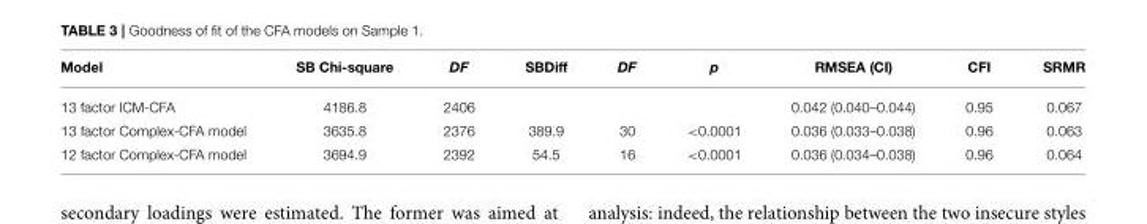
<table><thead><tr><td>Model</td><td>SB Chi-square</td><td>DF</td><td>SBDiff</td><td>DF</td><td>p</td><td>RMSEA (CI)</td><td>CFI</td><td>SRMR</td></tr></thead><tbody><tr><td>13 factor ICM-CFA</td><td>4186.8</td><td>2406</td><td></td><td></td><td></td><td>0.042 (0.040–0.044)</td><td>0.95</td><td>0.067</td></tr><tr><td>13 factor Complex-CFA model</td><td>3635.8</td><td>2376</td><td>389.9</td><td>30</td><td>&lt;0.0001</td><td>0.036 (0.033–0.038)</td><td>0.96</td><td>0.063</td></tr><tr><td>12 factor Complex-CFA model</td><td>3694.9</td><td>2392</td><td>54.5</td><td>16</td><td>&lt;0.0001</td><td>0.036 (0.034–0.038)</td><td>0.96</td><td>0.064</td></tr></tbody></table>